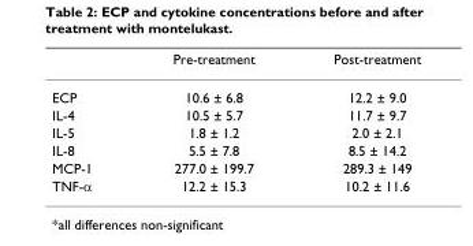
<table><thead><tr><td></td><td>Pre-treatment</td><td>Post-treatment</td></tr></thead><tbody><tr><td>ECP</td><td>10.6 ± 6.8</td><td>12.2 ± 9.0</td></tr><tr><td>IL-4</td><td>10.5 ± 5.7</td><td>11.7 ± 9.7</td></tr><tr><td>IL-5</td><td>1.8 ± 1.2</td><td>2.0 ± 2.1</td></tr><tr><td>IL-8</td><td>5.5 ± 7.8</td><td>8.5 ± 14.2</td></tr><tr><td>MCP-1</td><td>277.0 ± 199.7</td><td>289.3 ± 149</td></tr><tr><td>TNF-α</td><td>12.2 ± 15.3</td><td>10.2 ± 11.6</td></tr></tbody></table>